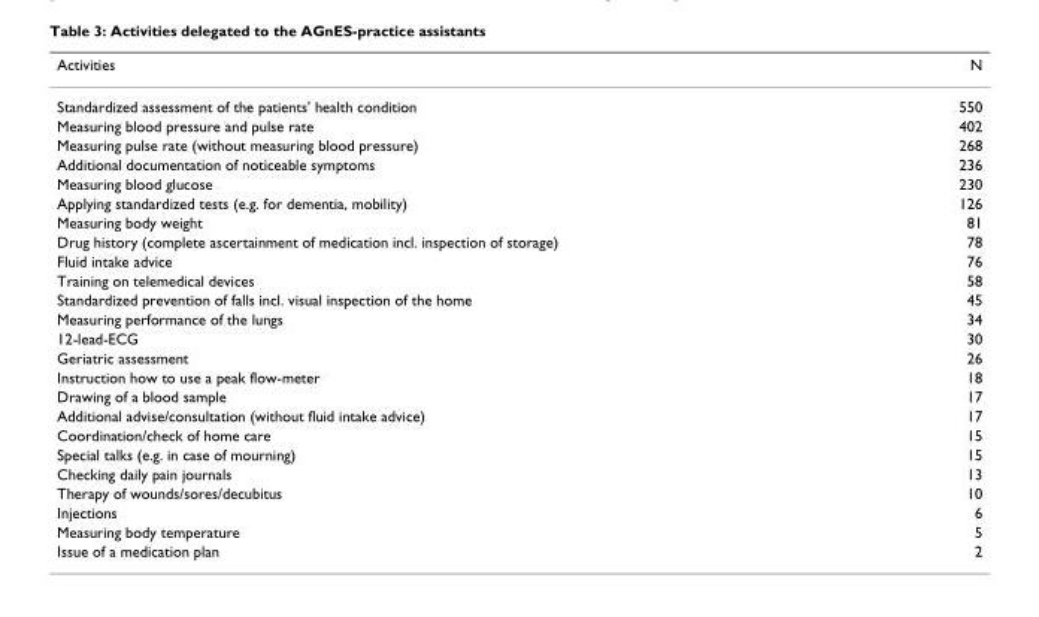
<table><thead><tr><td>Activities</td><td>N</td></tr></thead><tbody><tr><td>Standardized assessment of the patients&#x27; health condition</td><td>550</td></tr><tr><td>Measuring blood pressure and pulse rate</td><td>402</td></tr><tr><td>Measuring pulse rate (without measuring blood pressure)</td><td>268</td></tr><tr><td>Additional documentation of noticeable symptoms</td><td>236</td></tr><tr><td>Measuring blood glucose</td><td>230</td></tr><tr><td>Applying standardized tests (e.g. for dementia, mobility)</td><td>126</td></tr><tr><td>Measuring body weight</td><td>81</td></tr><tr><td>Drug history (complete ascertainment of medication incl. inspection of storage)</td><td>78</td></tr><tr><td>Fluid intake advice</td><td>76</td></tr><tr><td>Training on telemedical devices</td><td>58</td></tr><tr><td>Standardized prevention of falls incl. visual inspection of the home</td><td>45</td></tr><tr><td>Measuring performance of the lungs</td><td>34</td></tr><tr><td>12-lead-ECG</td><td>30</td></tr><tr><td>Geriatric assessment</td><td>26</td></tr><tr><td>Instruction how to use a peak flow-meter</td><td>18</td></tr><tr><td>Drawing of a blood sample</td><td>17</td></tr><tr><td>Additional advise/consultation (without fluid intake advice)</td><td>17</td></tr><tr><td>Coordination/check of home care</td><td>15</td></tr><tr><td>Special talks (e.g. in case of mourning)</td><td>15</td></tr><tr><td>Checking daily pain journals</td><td>13</td></tr><tr><td>Therapy of wounds/sores/decubitus</td><td>10</td></tr><tr><td>Injections</td><td>6</td></tr><tr><td>Measuring body temperature</td><td>5</td></tr><tr><td>Issue of a medication plan</td><td>2</td></tr></tbody></table>